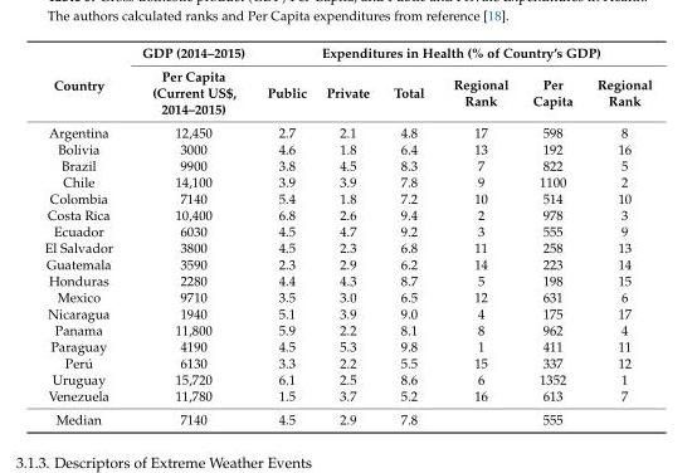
<table><thead><tr><td rowspan="2">Country</td><td rowspan="2">GDP (2014–2015) Per Capita (Current US$, 2014–2015)</td><td colspan="6">Expenditures in Health (% of Country’s GDP)</td></tr><tr><td>Public</td><td>Private</td><td>Total</td><td>Regional Rank</td><td>Per Capita</td><td>Regional Rank</td></tr></thead><tbody><tr><td>Argentina</td><td>12,450</td><td>2.7</td><td>2.1</td><td>4.8</td><td>17</td><td>598</td><td>8</td></tr><tr><td>Bolivia</td><td>3000</td><td>4.6</td><td>1.8</td><td>6.4</td><td>13</td><td>192</td><td>16</td></tr><tr><td>Brazil</td><td>9900</td><td>3.8</td><td>4.5</td><td>8.3</td><td>7</td><td>822</td><td>5</td></tr><tr><td>Chile</td><td>14,100</td><td>3.9</td><td>3.9</td><td>7.8</td><td>9</td><td>1100</td><td>2</td></tr><tr><td>Colombia</td><td>7140</td><td>5.4</td><td>1.8</td><td>7.2</td><td>10</td><td>514</td><td>10</td></tr><tr><td>Costa Rica</td><td>10,400</td><td>6.8</td><td>2.6</td><td>9.4</td><td>2</td><td>978</td><td>3</td></tr><tr><td>Ecuador</td><td>6030</td><td>4.5</td><td>4.7</td><td>9.2</td><td>3</td><td>555</td><td>9</td></tr><tr><td>El Salvador</td><td>3800</td><td>4.5</td><td>2.3</td><td>6.8</td><td>11</td><td>258</td><td>13</td></tr><tr><td>Guatemala</td><td>3590</td><td>2.3</td><td>2.9</td><td>6.2</td><td>14</td><td>223</td><td>14</td></tr><tr><td>Honduras</td><td>2280</td><td>4.4</td><td>4.3</td><td>8.7</td><td>5</td><td>198</td><td>15</td></tr><tr><td>Mexico</td><td>9710</td><td>3.5</td><td>3.0</td><td>6.5</td><td>12</td><td>631</td><td>6</td></tr><tr><td>Nicaragua</td><td>1940</td><td>5.1</td><td>3.9</td><td>9.0</td><td>4</td><td>175</td><td>17</td></tr><tr><td>Panama</td><td>11,800</td><td>5.9</td><td>2.2</td><td>8.1</td><td>8</td><td>962</td><td>4</td></tr><tr><td>Paraguay</td><td>4190</td><td>4.5</td><td>5.3</td><td>9.8</td><td>1</td><td>411</td><td>11</td></tr><tr><td>Perú</td><td>6130</td><td>3.3</td><td>2.2</td><td>5.5</td><td>15</td><td>337</td><td>12</td></tr><tr><td>Uruguay</td><td>15,720</td><td>6.1</td><td>2.5</td><td>8.6</td><td>6</td><td>1352</td><td>1</td></tr><tr><td>Venezuela</td><td>11,780</td><td>1.5</td><td>3.7</td><td>5.2</td><td>16</td><td>613</td><td>7</td></tr><tr><td>Median</td><td>7140</td><td>4.5</td><td>2.9</td><td>7.8</td><td></td><td>555</td><td></td></tr></tbody></table>